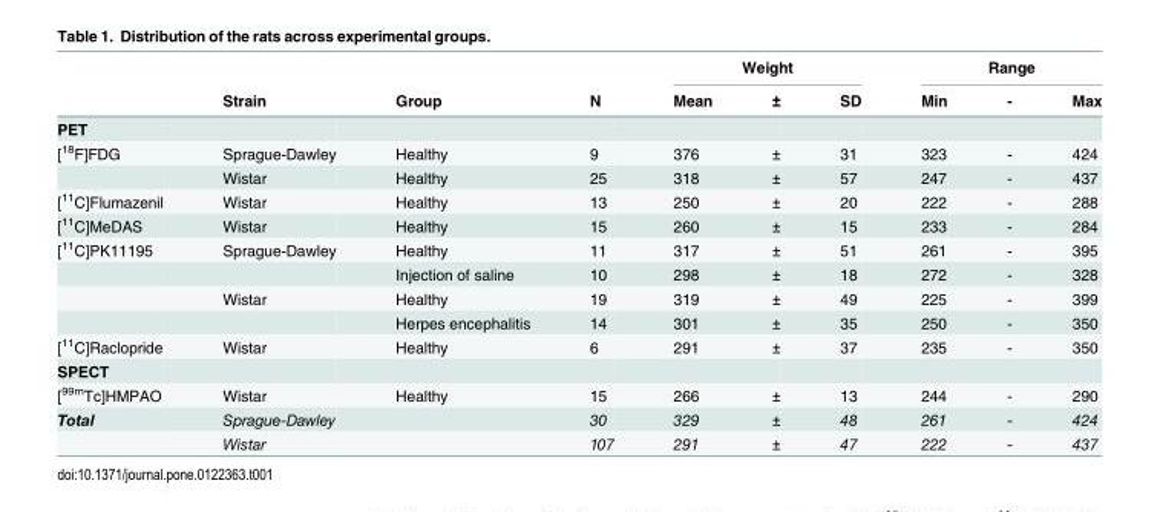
<table><thead><tr><td rowspan="2"></td><td rowspan="2">Strain</td><td rowspan="2">Group</td><td rowspan="2">N</td><td colspan="3">Weight</td><td colspan="3">Range</td></tr><tr><td>Mean</td><td>±</td><td>SD</td><td>Min</td><td>-</td><td>Max</td></tr></thead><tbody><tr><td colspan="10">PET</td></tr><tr><td rowspan="2">[<sup>18</sup>F]FDG</td><td>Sprague-Dawley</td><td>Healthy</td><td>9</td><td>376</td><td>±</td><td>31</td><td>323</td><td>-</td><td>424</td></tr><tr><td>Wistar</td><td>Healthy</td><td>25</td><td>318</td><td>±</td><td>57</td><td>247</td><td>-</td><td>437</td></tr><tr><td>[<sup>11</sup>C]Flumazenil</td><td>Wistar</td><td>Healthy</td><td>13</td><td>250</td><td>±</td><td>20</td><td>222</td><td>-</td><td>288</td></tr><tr><td>[<sup>11</sup>C]MeDAS</td><td>Wistar</td><td>Healthy</td><td>15</td><td>260</td><td>±</td><td>15</td><td>233</td><td>-</td><td>284</td></tr><tr><td rowspan="4">[<sup>11</sup>C]PK11195</td><td>Sprague-Dawley</td><td>Healthy</td><td>11</td><td>317</td><td>±</td><td>51</td><td>261</td><td>-</td><td>395</td></tr><tr><td></td><td>Injection of saline</td><td>10</td><td>298</td><td>±</td><td>18</td><td>272</td><td>-</td><td>328</td></tr><tr><td>Wistar</td><td>Healthy</td><td>19</td><td>319</td><td>±</td><td>49</td><td>225</td><td>-</td><td>399</td></tr><tr><td></td><td>Herpes encephalitis</td><td>14</td><td>301</td><td>±</td><td>35</td><td>250</td><td>-</td><td>350</td></tr><tr><td>[<sup>11</sup>C]Raclopride</td><td>Wistar</td><td>Healthy</td><td>6</td><td>291</td><td>±</td><td>37</td><td>235</td><td>-</td><td>350</td></tr><tr><td colspan="10">SPECT</td></tr><tr><td>[<sup>99m</sup>Tc]HMPAO</td><td>Wistar</td><td>Healthy</td><td>15</td><td>266</td><td>±</td><td>13</td><td>244</td><td>-</td><td>290</td></tr><tr><td rowspan="2">Total</td><td>Sprague-Dawley</td><td></td><td>30</td><td>329</td><td>±</td><td>48</td><td>261</td><td>-</td><td>424</td></tr><tr><td>Wistar</td><td></td><td>107</td><td>291</td><td>±</td><td>47</td><td>222</td><td>-</td><td>437</td></tr></tbody></table>